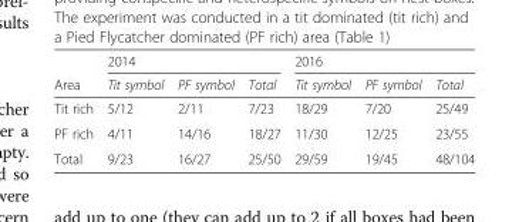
<table><thead><tr><td rowspan="2">Area</td><td colspan="3">2014</td><td colspan="3">2016</td></tr><tr><td>Tit symbol</td><td>PF symbol</td><td>Total</td><td>Tit symbol</td><td>PF symbol</td><td>Total</td></tr></thead><tbody><tr><td>Tit rich</td><td>5/12</td><td>2/11</td><td>7/23</td><td>18/29</td><td>7/20</td><td>25/49</td></tr><tr><td>PF rich</td><td>4/11</td><td>14/16</td><td>18/27</td><td>11/30</td><td>12/25</td><td>23/55</td></tr><tr><td>Total</td><td>9/23</td><td>16/27</td><td>25/50</td><td>29/59</td><td>19/45</td><td>48/104</td></tr></tbody></table>